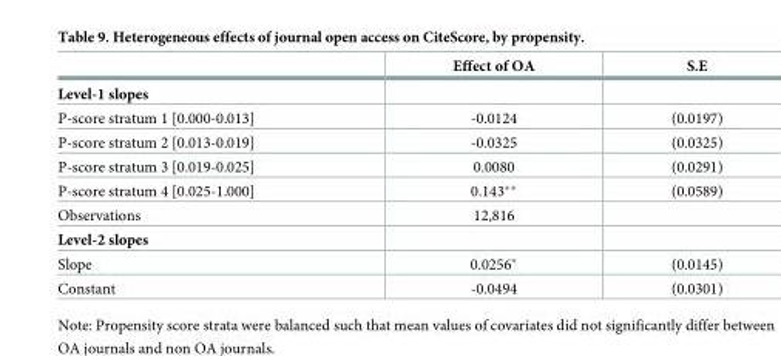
<table><thead><tr><td></td><td>Effect of OA</td><td>S.E</td></tr></thead><tbody><tr><td colspan="3">Level-1 slopes</td></tr><tr><td>P-score stratum 1 [0.000-0.013]</td><td>-0.0124</td><td>(0.0197)</td></tr><tr><td>P-score stratum 2 [0.013-0.019]</td><td>-0.0325</td><td>(0.0325)</td></tr><tr><td>P-score stratum 3 [0.019-0.025]</td><td>0.0080</td><td>(0.0291)</td></tr><tr><td>P-score stratum 4 [0.025-1.000]</td><td>0.143**</td><td>(0.0589)</td></tr><tr><td>Observations</td><td>12,816</td><td></td></tr><tr><td colspan="3">Level-2 slopes</td></tr><tr><td>Slope</td><td>0.0256*</td><td>(0.0145)</td></tr><tr><td>Constant</td><td>-0.0494</td><td>(0.0301)</td></tr></tbody></table>